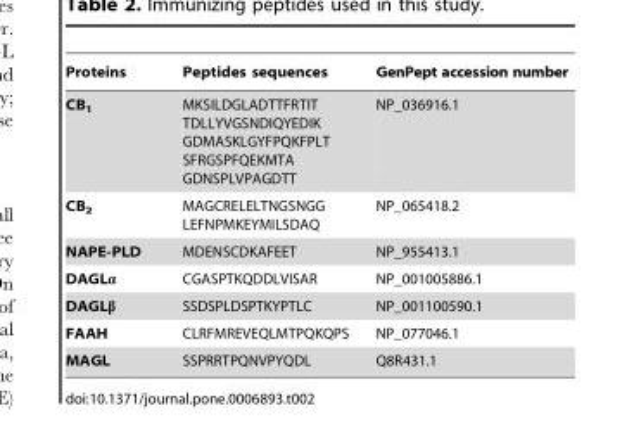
<table><thead><tr><td>Proteins</td><td>Peptides sequences</td><td>GenPept accession number</td></tr></thead><tbody><tr><td>CB<sub>1</sub></td><td>MKSILDGLADTTFRTIT TDLLYVGSNDIQYEDIK GDMASKLGYFPQKFPLT SFRGSPFQEKMTA GDNSPLVPAGDTT</td><td>NP_036916.1</td></tr><tr><td>CB<sub>2</sub></td><td>MAGCRELELTNGSNGG LEFNPMKEYMILSDAQ</td><td>NP_065418.2</td></tr><tr><td>NAPE-PLD</td><td>MDENSCDKAFEET</td><td>NP_955413.1</td></tr><tr><td>DAGLα</td><td>CGASPTKQDDLVISAR</td><td>NP_001005886.1</td></tr><tr><td>DAGLβ</td><td>SSDSPLDSPTKYPTLC</td><td>NP_001100590.1</td></tr><tr><td>FAAH</td><td>CLRFMREVEQLMTPQKQPS</td><td>NP_077046.1</td></tr><tr><td>MAGL</td><td>SSPRRTPQNVPYQDL</td><td>Q8R431.1</td></tr></tbody></table>